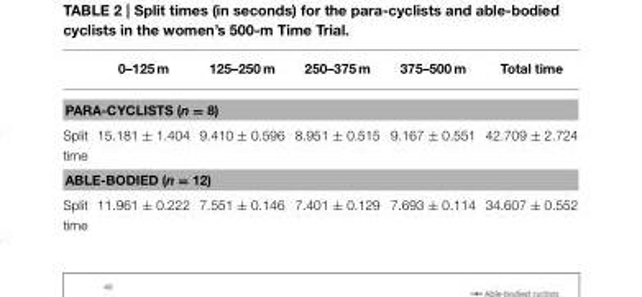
<table><thead><tr><td></td><td>0–125 m</td><td>125–250 m</td><td>250–375 m</td><td>375–500 m</td><td>Total time</td></tr></thead><tbody><tr><td colspan="6">PARA-CYCLISTS (n = 8)</td></tr><tr><td>Split time</td><td>15.181 ± 1.404</td><td>9.410 ± 0.596</td><td>8.951 ± 0.515</td><td>9.167 ± 0.551</td><td>42.709 ± 2.724</td></tr><tr><td colspan="6">ABLE-BODIED (n = 12)</td></tr><tr><td>Split time</td><td>11.961 ± 0.222</td><td>7.551 ± 0.146</td><td>7.401 ± 0.129</td><td>7.693 ± 0.114</td><td>34.607 ± 0.552</td></tr></tbody></table>